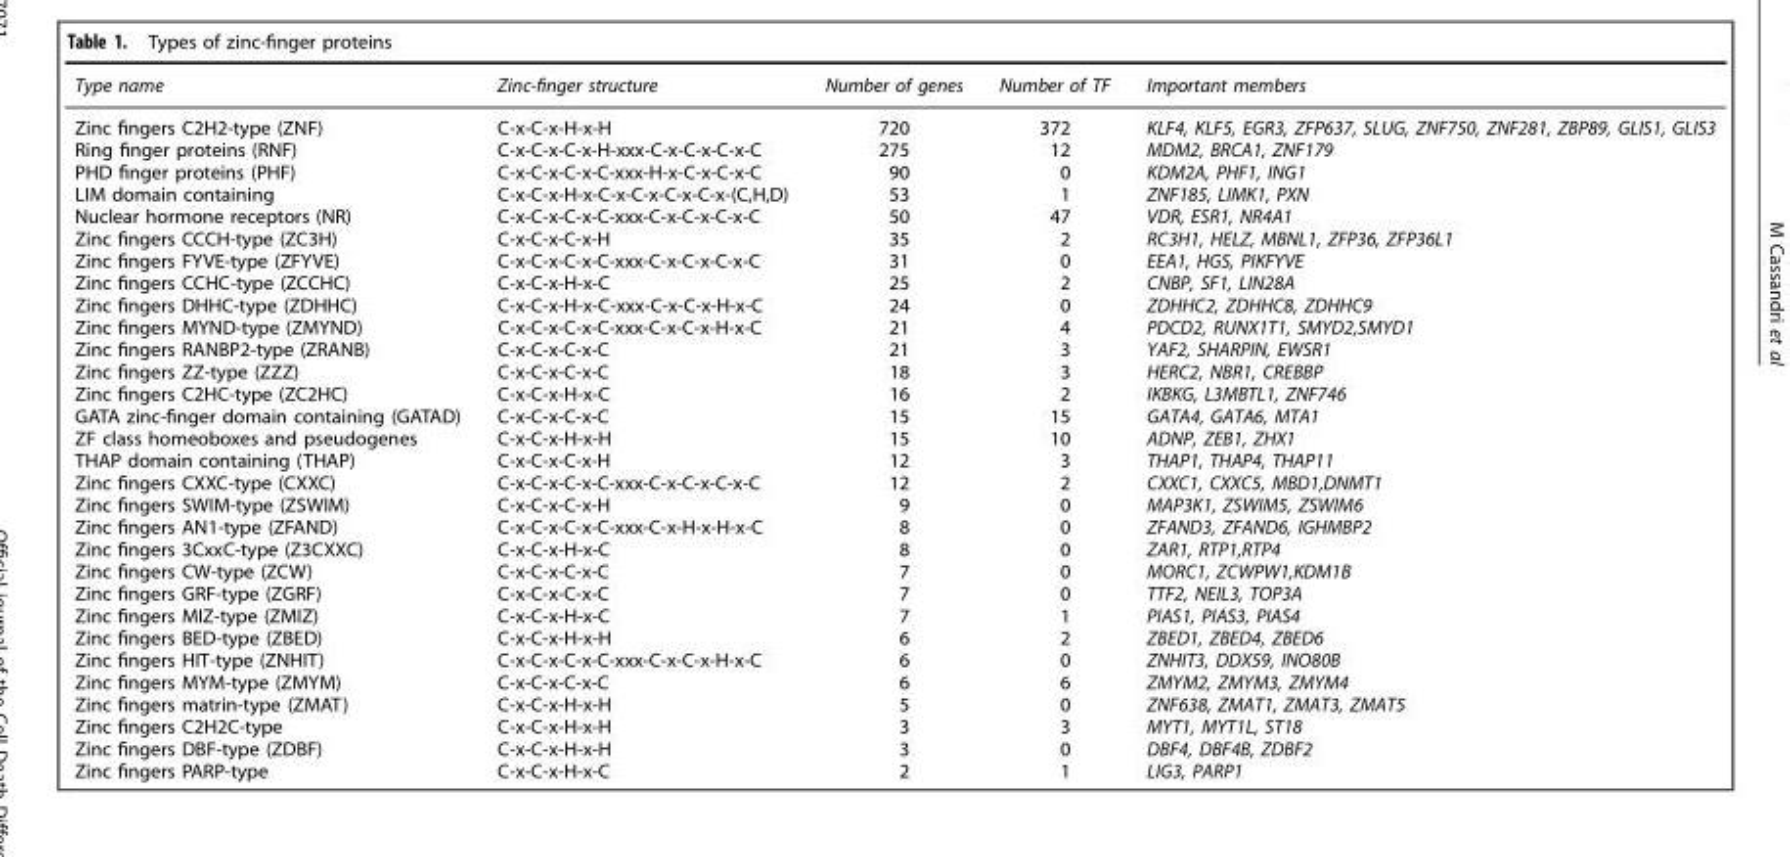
<table><thead><tr><td>Type name</td><td>Zinc-finger structure</td><td>Number of genes</td><td>Number of TF</td><td>Important members</td></tr></thead><tbody><tr><td>Zinc fingers C2H2-type (ZNF)</td><td>C-x-C-x-H-x-H</td><td>720</td><td>372</td><td>KLF4, KLF5, EGR3, ZFP637, SLUG, ZNF750, ZNF281, ZBP89, GLIS1, GLIS3</td></tr><tr><td>Ring finger proteins (RNF)</td><td>C-x-C-x-C-x-H-xxx-C-x-C-x-C-x-C</td><td>275</td><td>12</td><td>MDM2, BRCA1, ZNF179</td></tr><tr><td>PHD finger proteins (PHF)</td><td>C-x-C-x-C-x-C-xxx-H-x-C-x-C-x-C</td><td>90</td><td>0</td><td>KDM2A, PHF1, ING1</td></tr><tr><td>LIM domain containing</td><td>C-x-C-x-H-x-C-x-C-x-C-x-C-x-(C,H,D)</td><td>53</td><td>1</td><td>ZNF185, LIMK1, PXN</td></tr><tr><td>Nuclear hormone receptors (NR)</td><td>C-x-C-x-C-x-C-xxx-C-x-C-x-C-x-C</td><td>50</td><td>47</td><td>VDR, ESR1, NR4A1</td></tr><tr><td>Zinc fingers CCCH-type (ZC3H)</td><td>C-x-C-x-C-x-H</td><td>35</td><td>2</td><td>RC3H1, HELZ, MBNL1, ZFP36, ZFP36L1</td></tr><tr><td>Zinc fingers FYVE-type (ZFYVE)</td><td>C-x-C-x-C-x-C-xxx-C-x-C-x-C-x-C</td><td>31</td><td>0</td><td>EEA1, HGS, PIKFYVE</td></tr><tr><td>Zinc fingers CCHC-type (ZCCHC)</td><td>C-x-C-x-H-x-C</td><td>25</td><td>2</td><td>CNBP, SF1, LIN28A</td></tr><tr><td>Zinc fingers DHHC-type (ZDHHC)</td><td>C-x-C-x-H-x-C-xxx-C-x-C-x-H-x-C</td><td>24</td><td>0</td><td>ZDHHC2, ZDHHC8, ZDHHC9</td></tr><tr><td>Zinc fingers MYND-type (ZMYND)</td><td>C-x-C-x-C-x-C-xxx-C-x-C-x-H-x-C</td><td>21</td><td>4</td><td>PDCD2, RUNX1T1, SMYD2,SMYD1</td></tr><tr><td>Zinc fingers RANBP2-type (ZRANB)</td><td>C-x-C-x-C-x-C</td><td>21</td><td>3</td><td>YAF2, SHARPIN, EWSR1</td></tr><tr><td>Zinc fingers ZZ-type (ZZZ)</td><td>C-x-C-x-C-x-C</td><td>18</td><td>3</td><td>HERC2, NBR1, CREBBP</td></tr><tr><td>Zinc fingers C2HC-type (ZC2HC)</td><td>C-x-C-x-H-x-C</td><td>16</td><td>2</td><td>IKBKG, L3MBTL1, ZNF746</td></tr><tr><td>GATA zinc-finger domain containing (GATAD)</td><td>C-x-C-x-C-x-C</td><td>15</td><td>15</td><td>GATA4, GATA6, MTA1</td></tr><tr><td>ZF class homeoboxes and pseudogenes</td><td>C-x-C-x-H-x-H</td><td>15</td><td>10</td><td>ADNP, ZEB1, ZHX1</td></tr><tr><td>THAP domain containing (THAP)</td><td>C-x-C-x-C-x-H</td><td>12</td><td>3</td><td>THAP1, THAP4, THAP11</td></tr><tr><td>Zinc fingers CXXC-type (CXXC)</td><td>C-x-C-x-C-x-C-xxx-C-x-C-x-C-x-C</td><td>12</td><td>2</td><td>CXXC1, CXXC5, MBD1,DNMT1</td></tr><tr><td>Zinc fingers SWIM-type (ZSWIM)</td><td>C-x-C-x-C-x-H</td><td>9</td><td>0</td><td>MAP3K1, ZSWIM5, ZSWIM6</td></tr><tr><td>Zinc fingers AN1-type (ZFAND)</td><td>C-x-C-x-C-x-C-xxx-C-x-H-x-H-x-C</td><td>8</td><td>0</td><td>ZFAND3, ZFAND6, IGHMBP2</td></tr><tr><td>Zinc fingers 3CxxC-type (Z3CXXC)</td><td>C-x-C-x-H-x-C</td><td>8</td><td>0</td><td>ZAR1, RTP1,RTP4</td></tr><tr><td>Zinc fingers CW-type (ZCW)</td><td>C-x-C-x-C-x-C</td><td>7</td><td>0</td><td>MORC1, ZCWPW1,KDM1B</td></tr><tr><td>Zinc fingers GRF-type (ZGRF)</td><td>C-x-C-x-C-x-C</td><td>7</td><td>0</td><td>TTF2, NEIL3, TOP3A</td></tr><tr><td>Zinc fingers MIZ-type (ZMIZ)</td><td>C-x-C-x-H-x-C</td><td>7</td><td>1</td><td>PIAS1, PIAS3, PIAS4</td></tr><tr><td>Zinc fingers BED-type (ZBED)</td><td>C-x-C-x-H-x-H</td><td>6</td><td>2</td><td>ZBED1, ZBED4, ZBED6</td></tr><tr><td>Zinc fingers HIT-type (ZNHIT)</td><td>C-x-C-x-C-x-C-xxx-C-x-C-x-H-x-C</td><td>6</td><td>0</td><td>ZNHIT3, DDX59, INO80B</td></tr><tr><td>Zinc fingers MYM-type (ZMYM)</td><td>C-x-C-x-C-x-C</td><td>6</td><td>6</td><td>ZMYM2, ZMYM3, ZMYM4</td></tr><tr><td>Zinc fingers matrin-type (ZMAT)</td><td>C-x-C-x-H-x-H</td><td>5</td><td>0</td><td>ZNF638, ZMAT1, ZMAT3, ZMAT5</td></tr><tr><td>Zinc fingers C2H2C-type</td><td>C-x-C-x-H-x-H</td><td>3</td><td>3</td><td>MYT1, MYT1L, ST18</td></tr><tr><td>Zinc fingers DBF-type (ZDBF)</td><td>C-x-C-x-H-x-H</td><td>3</td><td>0</td><td>DBF4, DBF4B, ZDBF2</td></tr><tr><td>Zinc fingers PARP-type</td><td>C-x-C-x-H-x-C</td><td>2</td><td>1</td><td>LIG3, PARP1</td></tr></tbody></table>